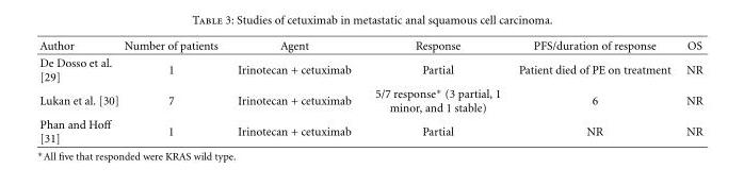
<table><thead><tr><td>Author</td><td>Number of patients</td><td>Agent</td><td>Response</td><td>PFS/duration of response</td><td>OS</td></tr></thead><tbody><tr><td>De Dosso et al. [29]</td><td>1</td><td>Irinotecan + cetuximab</td><td>Partial</td><td>Patient died of PE on treatment</td><td>NR</td></tr><tr><td>Lukan et al. [30]</td><td>7</td><td>Irinotecan + cetuximab</td><td>5/7 response∗ (3 partial, 1 minor, and 1 stable)</td><td>6</td><td>NR</td></tr><tr><td>Phan and Hoff [31]</td><td>1</td><td>Irinotecan + cetuximab</td><td>Partial</td><td>NR</td><td>NR</td></tr></tbody></table>